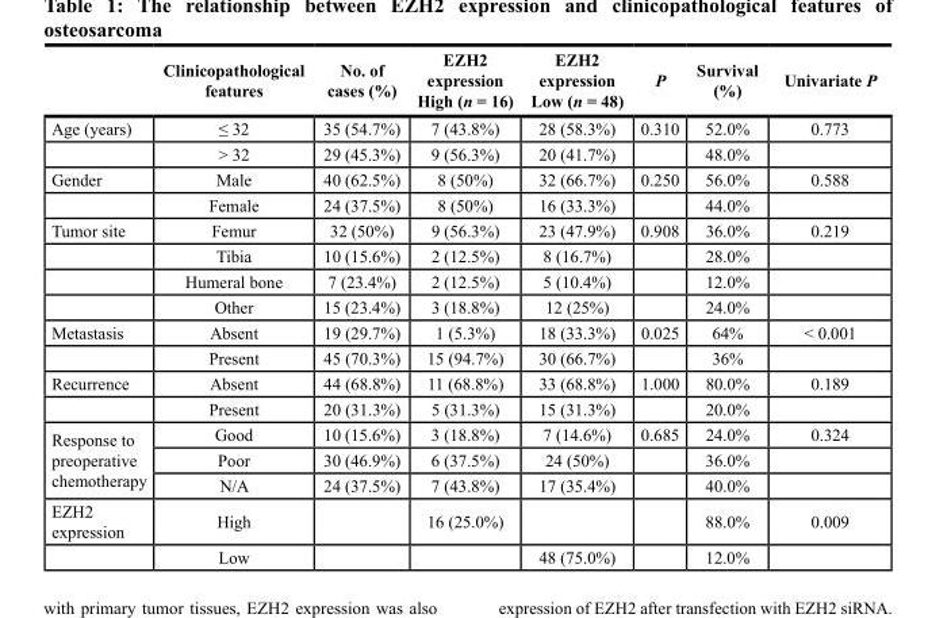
<table><thead><tr><td></td><td>clinicopathological features</td><td>No. of cases (%)</td><td>EZH2 expression High (n = 16)</td><td>EZH2 expression Low (n = 48)</td><td>P</td><td>survival (%)</td><td>Univariate P</td></tr></thead><tbody><tr><td rowspan="2">Age (years)</td><td>≤ 32</td><td>35 (54.7%)</td><td>7 (43.8%)</td><td>28 (58.3%)</td><td>0.310</td><td>52.0%</td><td>0.773</td></tr><tr><td>&gt; 32</td><td>29 (45.3%)</td><td>9 (56.3%)</td><td>20 (41.7%)</td><td></td><td>48.0%</td><td></td></tr><tr><td rowspan="2">Gender</td><td>Male</td><td>40 (62.5%)</td><td>8 (50%)</td><td>32 (66.7%)</td><td>0.250</td><td>56.0%</td><td>0.588</td></tr><tr><td>Female</td><td>24 (37.5%)</td><td>8 (50%)</td><td>16 (33.3%)</td><td></td><td>44.0%</td><td></td></tr><tr><td rowspan="4">Tumor site</td><td>Femur</td><td>32 (50%)</td><td>9 (56.3%)</td><td>23 (47.9%)</td><td>0.908</td><td>36.0%</td><td>0.219</td></tr><tr><td>Tibia</td><td>10 (15.6%)</td><td>2 (12.5%)</td><td>8 (16.7%)</td><td></td><td>28.0%</td><td></td></tr><tr><td>Humeral bone</td><td>7 (23.4%)</td><td>2 (12.5%)</td><td>5 (10.4%)</td><td></td><td>12.0%</td><td></td></tr><tr><td>Other</td><td>15 (23.4%)</td><td>3 (18.8%)</td><td>12 (25%)</td><td></td><td>24.0%</td><td></td></tr><tr><td rowspan="2">Metastasis</td><td>Absent</td><td>19 (29.7%)</td><td>1 (5.3%)</td><td>18 (33.3%)</td><td>0.025</td><td>64%</td><td>&lt; 0.001</td></tr><tr><td>Present</td><td>45 (70.3%)</td><td>15 (94.7%)</td><td>30 (66.7%)</td><td></td><td>36%</td><td></td></tr><tr><td rowspan="2">Recurrence</td><td>Absent</td><td>44 (68.8%)</td><td>11 (68.8%)</td><td>33 (68.8%)</td><td>1.000</td><td>80.0%</td><td>0.189</td></tr><tr><td>Present</td><td>20 (31.3%)</td><td>5 (31.3%)</td><td>15 (31.3%)</td><td></td><td>20.0%</td><td></td></tr><tr><td rowspan="3">Response to preoperative chemotherapy</td><td>Good</td><td>10 (15.6%)</td><td>3 (18.8%)</td><td>7 (14.6%)</td><td>0.685</td><td>24.0%</td><td>0.324</td></tr><tr><td>Poor</td><td>30 (46.9%)</td><td>6 (37.5%)</td><td>24 (50%)</td><td></td><td>36.0%</td><td></td></tr><tr><td>N/A</td><td>24 (37.5%)</td><td>7 (43.8%)</td><td>17 (35.4%)</td><td></td><td>40.0%</td><td></td></tr><tr><td rowspan="2">EZH2 expression</td><td>High</td><td></td><td>16 (25.0%)</td><td></td><td></td><td>88.0%</td><td>0.009</td></tr><tr><td>Low</td><td></td><td></td><td>48 (75.0%)</td><td></td><td>12.0%</td><td></td></tr></tbody></table>